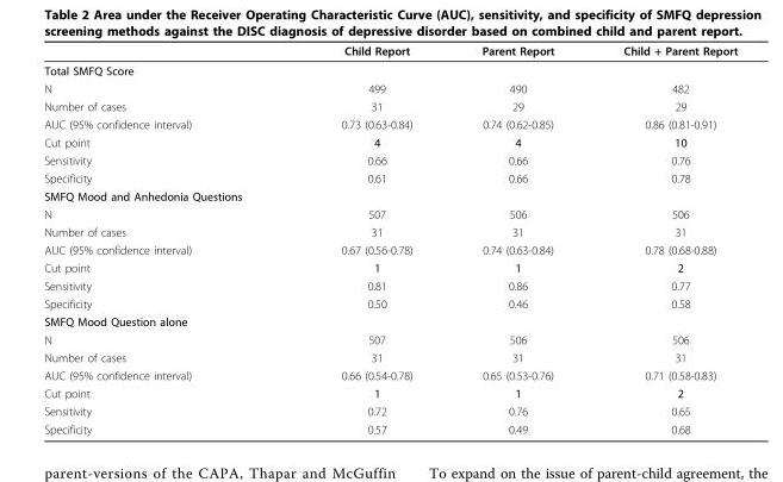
<table><thead><tr><td></td><td>Child Report</td><td>Parent Report</td><td>Child + Parent Report</td></tr></thead><tbody><tr><td colspan="4">Total SMFQ Score</td></tr><tr><td>N</td><td>499</td><td>490</td><td>482</td></tr><tr><td>Number of cases</td><td>31</td><td>29</td><td>29</td></tr><tr><td>AUC (95% confidence interval)</td><td>0.73 (0.63-0.84)</td><td>0.74 (0.62-0.85)</td><td>0.86 (0.81-0.91)</td></tr><tr><td>Cut point</td><td>4</td><td>4</td><td>10</td></tr><tr><td>Sensitivity</td><td>0.66</td><td>0.66</td><td>0.76</td></tr><tr><td>Specificity</td><td>0.61</td><td>0.66</td><td>0.78</td></tr><tr><td colspan="4">SMFQ Mood and Anhedonia Questions</td></tr><tr><td>N</td><td>507</td><td>506</td><td>506</td></tr><tr><td>Number of cases</td><td>31</td><td>31</td><td>31</td></tr><tr><td>AUC (95% confidence interval)</td><td>0.67 (0.56-0.78)</td><td>0.74 (0.63-0.84)</td><td>0.78 (0.68-0.88)</td></tr><tr><td>Cut point</td><td>1</td><td>1</td><td>2</td></tr><tr><td>Sensitivity</td><td>0.81</td><td>0.86</td><td>0.77</td></tr><tr><td>Specificity</td><td>0.50</td><td>0.46</td><td>0.58</td></tr><tr><td colspan="4">SMFQ Mood Question alone</td></tr><tr><td>N</td><td>507</td><td>506</td><td>506</td></tr><tr><td>Number of cases</td><td>31</td><td>31</td><td>31</td></tr><tr><td>AUC (95% confidence interval)</td><td>0.66 (0.54-0.78)</td><td>0.65 (0.53-0.76)</td><td>0.71 (0.58-0.83)</td></tr><tr><td>Cut point</td><td>1</td><td>1</td><td>2</td></tr><tr><td>Sensitivity</td><td>0.72</td><td>0.76</td><td>0.65</td></tr><tr><td>Specificity</td><td>0.57</td><td>0.49</td><td>0.68</td></tr></tbody></table>